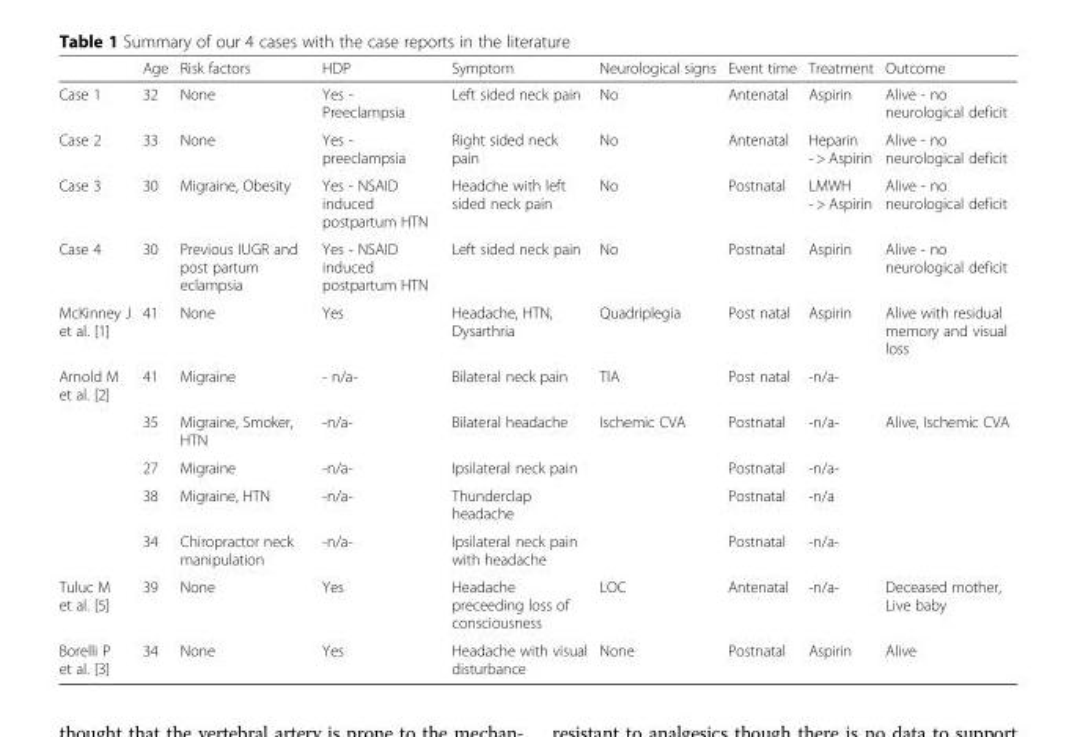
<table><thead><tr><td></td><td>Age</td><td>Risk factors</td><td>HDP</td><td>Symptom</td><td>Neurological signs</td><td>Event time</td><td>Treatment</td><td>Outcome</td></tr></thead><tbody><tr><td>Case 1</td><td>32</td><td>None</td><td>Yes - Preeclampsia</td><td>Left sided neck pain</td><td>No</td><td>Antenatal</td><td>Aspirin</td><td>Alive - no neurological deficit</td></tr><tr><td>Case 2</td><td>33</td><td>None</td><td>Yes - preeclampsia</td><td>Right sided neck pain</td><td>No</td><td>Antenatal</td><td>Heparin - &gt; Aspirin</td><td>Alive - no neurological deficit</td></tr><tr><td>Case 3</td><td>30</td><td>Migraine, Obesity</td><td>Yes - NSAID induced postpartum HTN</td><td>Headche with left sided neck pain</td><td>No</td><td>Postnatal</td><td>LMWH - &gt; Aspirin</td><td>Alive - no neurological deficit</td></tr><tr><td>Case 4</td><td>30</td><td>Previous IUGR and post partum eclampsia</td><td>Yes - NSAID induced postpartum HTN</td><td>Left sided neck pain</td><td>No</td><td>Postnatal</td><td>Aspirin</td><td>Alive - no neurological deficit</td></tr><tr><td>McKinney J et al. [1]</td><td>41</td><td>None</td><td>Yes</td><td>Headache, HTN, Dysarthria</td><td>Quadriplegia</td><td>Post natal</td><td>Aspirin</td><td>Alive with residual memory and visual loss</td></tr><tr><td rowspan="5">Arnold M et al. [2]</td><td>41</td><td>Migraine</td><td>- n/a-</td><td>Bilateral neck pain</td><td>TIA</td><td>Post natal</td><td>-n/a-</td><td></td></tr><tr><td>35</td><td>Migraine, Smoker, HTN</td><td>-n/a-</td><td>Bilateral headache</td><td>Ischemic CVA</td><td>Postnatal</td><td>-n/a-</td><td>Alive, Ischemic CVA</td></tr><tr><td>27</td><td>Migraine</td><td>-n/a-</td><td>Ipsilateral neck pain</td><td></td><td>Postnatal</td><td>-n/a-</td><td></td></tr><tr><td>38</td><td>Migraine, HTN</td><td>-n/a-</td><td>Thunderclap headache</td><td></td><td>Postnatal</td><td>-n/a</td><td></td></tr><tr><td>34</td><td>Chiropractor neck manipulation</td><td>-n/a-</td><td>Ipsilateral neck pain with headache</td><td></td><td>Postnatal</td><td>-n/a-</td><td></td></tr><tr><td>Tuluc M et al. [5]</td><td>39</td><td>None</td><td>Yes</td><td>Headache preceeding loss of consciousness</td><td>LOC</td><td>Antenatal</td><td>-n/a-</td><td>Deceased mother, Live baby</td></tr><tr><td>Borelli P et al. [3]</td><td>34</td><td>None</td><td>Yes</td><td>Headache with visual disturbance</td><td>None</td><td>Postnatal</td><td>Aspirin</td><td>Alive</td></tr></tbody></table>